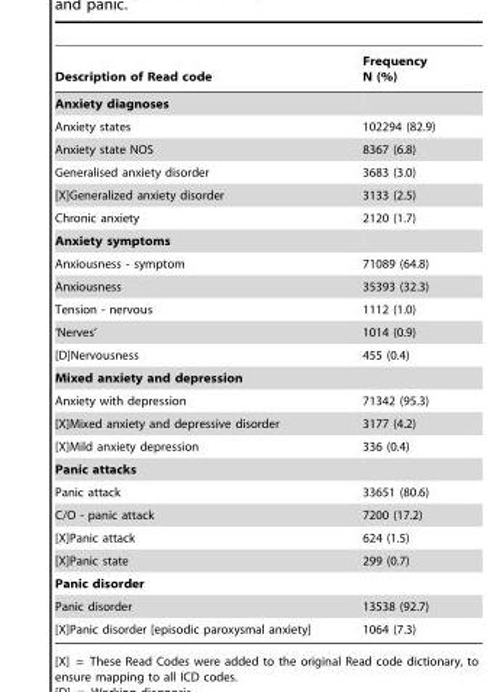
<table><thead><tr><td>Description of Read code</td><td>Frequency N (%)</td></tr></thead><tbody><tr><td colspan="2">Anxiety diagnoses</td></tr><tr><td>Anxiety states</td><td>102294 (82.9)</td></tr><tr><td>Anxiety state NOS</td><td>8367 (6.8)</td></tr><tr><td>Generalised anxiety disorder</td><td>3683 (3.0)</td></tr><tr><td>[X]Generalized anxiety disorder</td><td>3133 (2.5)</td></tr><tr><td>Chronic anxiety</td><td>2120 (1.7)</td></tr><tr><td colspan="2">Anxiety symptoms</td></tr><tr><td>Anxiousness - symptom</td><td>71089 (64.8)</td></tr><tr><td>Anxiousness</td><td>35393 (32.3)</td></tr><tr><td>Tension - nervous</td><td>1112 (1.0)</td></tr><tr><td>‘Nerves’</td><td>1014 (0.9)</td></tr><tr><td>[D]Nervousness</td><td>455 (0.4)</td></tr><tr><td colspan="2">Mixed anxiety and depression</td></tr><tr><td>Anxiety with depression</td><td>71342 (95.3)</td></tr><tr><td>[X]Mixed anxiety and depressive disorder</td><td>3177 (4.2)</td></tr><tr><td>[X]Mild anxiety depression</td><td>336 (0.4)</td></tr><tr><td colspan="2">Panic attacks</td></tr><tr><td>Panic attack</td><td>33651 (80.6)</td></tr><tr><td>C/O - panic attack</td><td>7200 (17.2)</td></tr><tr><td>[X]Panic attack</td><td>624 (1.5)</td></tr><tr><td>[X]Panic state</td><td>299 (0.7)</td></tr><tr><td colspan="2">Panic disorder</td></tr><tr><td>Panic disorder</td><td>13538 (92.7)</td></tr><tr><td>[X]Panic disorder [episodic paroxysmal anxiety]</td><td>1064 (7.3)</td></tr></tbody></table>